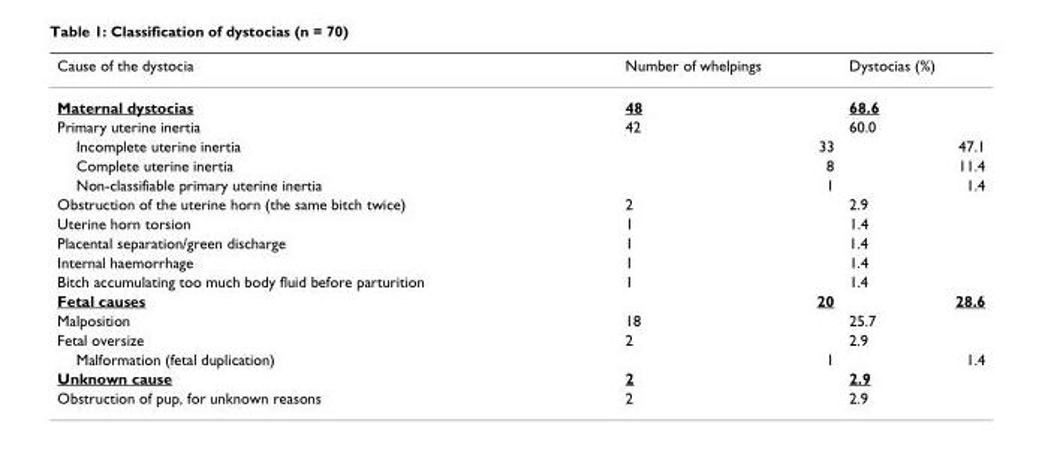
<table><thead><tr><td>Cause of the dystocia</td><td>Number of whelpings</td><td>Dystocias (%)</td></tr></thead><tbody><tr><td>Maternal dystocias</td><td>48</td><td>68.6</td></tr><tr><td>Primary uterine inertia</td><td>42</td><td>60.0</td></tr><tr><td>Incomplete uterine inertia</td><td>33</td><td>47.1</td></tr><tr><td>Complete uterine inertia</td><td>8</td><td>11.4</td></tr><tr><td>Non-classifiable primary uterine inertia</td><td>1</td><td>1.4</td></tr><tr><td>Obstruction of the uterine horn (the same bitch twice)</td><td>2</td><td>2.9</td></tr><tr><td>Uterine horn torsion</td><td>1</td><td>1.4</td></tr><tr><td>Placental separation/green discharge</td><td>1</td><td>1.4</td></tr><tr><td>Internal haemorrhage</td><td>1</td><td>1.4</td></tr><tr><td>Bitch accumulating too much body fluid before parturition</td><td>1</td><td>1.4</td></tr><tr><td>Fetal causes</td><td>20</td><td>28.6</td></tr><tr><td>Malposition</td><td>18</td><td>25.7</td></tr><tr><td>Fetal oversize</td><td>2</td><td>2.9</td></tr><tr><td>Malformation (fetal duplication)</td><td>1</td><td>1.4</td></tr><tr><td>Unknown cause</td><td>2</td><td>2.9</td></tr><tr><td>Obstruction of pup, for unknown reasons</td><td>2</td><td>2.9</td></tr></tbody></table>